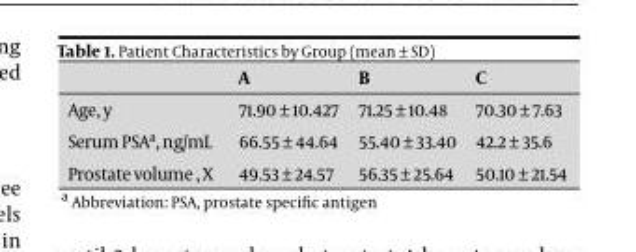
<table><thead><tr><td></td><td>A</td><td>B</td><td>C</td></tr></thead><tbody><tr><td>Age, y</td><td>71.90 ± 10.427</td><td>71.25 ± 10.48</td><td>70.30 ± 7.63</td></tr><tr><td>Serum PSA<sup>a</sup>, ng/mL</td><td>66.55 ± 44.64</td><td>55.40 ± 33.40</td><td>42.2 ± 35.6</td></tr><tr><td>Prostate volume , X</td><td>49.53 ± 24.57</td><td>56.35 ± 25.64</td><td>50.10 ± 21.54</td></tr></tbody></table>